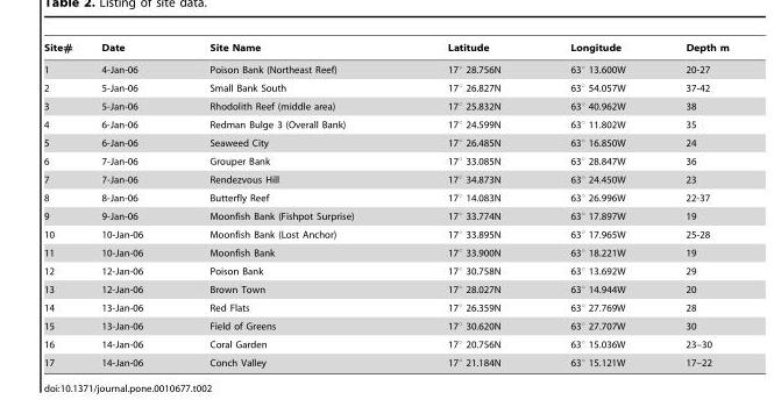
<table><thead><tr><td>Site#</td><td>Date</td><td>Site Name</td><td>Latitude</td><td>Longitude</td><td>Depth m</td></tr></thead><tbody><tr><td>1</td><td>4-Jan-06</td><td>Poison Bank (Northeast Reef)</td><td>17° 28.756N</td><td>63° 13.600W</td><td>20-27</td></tr><tr><td>2</td><td>5-Jan-06</td><td>Small Bank South</td><td>17° 26.827N</td><td>63° 54.057W</td><td>37-42</td></tr><tr><td>3</td><td>5-Jan-06</td><td>Rhodolith Reef (middle area)</td><td>17° 25.832N</td><td>63° 40.962W</td><td>38</td></tr><tr><td>4</td><td>6-Jan-06</td><td>Redman Bulge 3 (Overall Bank)</td><td>17° 24.599N</td><td>63° 11.802W</td><td>35</td></tr><tr><td>5</td><td>6-Jan-06</td><td>Seaweed City</td><td>17° 26.485N</td><td>63° 16.850W</td><td>24</td></tr><tr><td>6</td><td>7-Jan-06</td><td>Grouper Bank</td><td>17° 33.085N</td><td>63° 28.847W</td><td>36</td></tr><tr><td>7</td><td>7-Jan-06</td><td>Rendezvous Hill</td><td>17° 34.873N</td><td>63° 24.450W</td><td>23</td></tr><tr><td>8</td><td>8-Jan-06</td><td>Butterfly Reef</td><td>17° 14.083N</td><td>63° 26.996W</td><td>22-37</td></tr><tr><td>9</td><td>9-Jan-06</td><td>Moonfish Bank (Fishpot Surprise)</td><td>17° 33.774N</td><td>63° 17.897W</td><td>19</td></tr><tr><td>10</td><td>10-Jan-06</td><td>Moonfish Bank (Lost Anchor)</td><td>17° 33.895N</td><td>63° 17.965W</td><td>25-28</td></tr><tr><td>11</td><td>10-Jan-06</td><td>Moonfish Bank</td><td>17° 33.900N</td><td>63° 18.221W</td><td>19</td></tr><tr><td>12</td><td>12-Jan-06</td><td>Poison Bank</td><td>17° 30.758N</td><td>63° 13.692W</td><td>29</td></tr><tr><td>13</td><td>12-Jan-06</td><td>Brown Town</td><td>17° 28.027N</td><td>63° 14.944W</td><td>20</td></tr><tr><td>14</td><td>13-Jan-06</td><td>Red Flats</td><td>17° 26.359N</td><td>63° 27.769W</td><td>28</td></tr><tr><td>15</td><td>13-Jan-06</td><td>Field of Greens</td><td>17° 30.620N</td><td>63° 27.707W</td><td>30</td></tr><tr><td>16</td><td>14-Jan-06</td><td>Coral Garden</td><td>17° 20.756N</td><td>63° 15.036W</td><td>23–30</td></tr><tr><td>17</td><td>14-Jan-06</td><td>Conch Valley</td><td>17° 21.184N</td><td>63° 15.121W</td><td>17–22</td></tr></tbody></table>